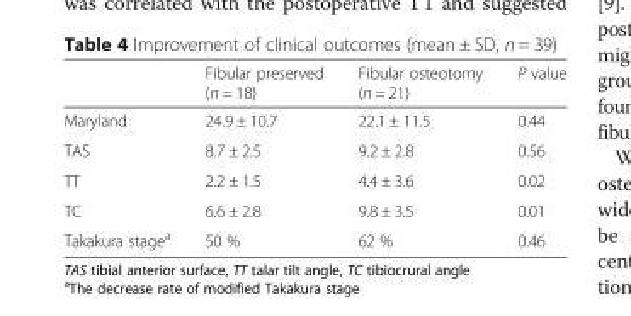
<table><thead><tr><td></td><td>Fibular preserved (n = 18)</td><td>Fibular osteotomy (n = 21)</td><td>P value</td></tr></thead><tbody><tr><td>Maryland</td><td>24.9 ± 10.7</td><td>22.1 ± 11.5</td><td>0.44</td></tr><tr><td>TAS</td><td>8.7 ± 2.5</td><td>9.2 ± 2.8</td><td>0.56</td></tr><tr><td>TT</td><td>2.2 ± 1.5</td><td>4.4 ± 3.6</td><td>0.02</td></tr><tr><td>TC</td><td>6.6 ± 2.8</td><td>9.8 ± 3.5</td><td>0.01</td></tr><tr><td>Takakura stage<sup>a</sup></td><td>50 %</td><td>62 %</td><td>0.46</td></tr></tbody></table>